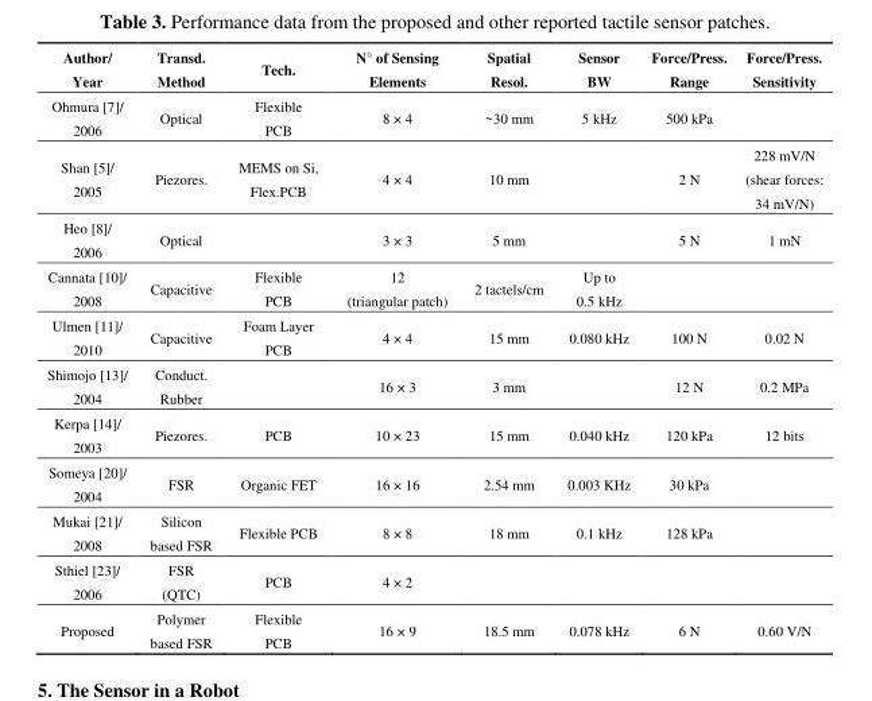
<table><thead><tr><td>Author/ Year</td><td>Transd. Method</td><td>Tech.</td><td>N° of Sensing Elements</td><td>Spatial Resol.</td><td>Sensor BW</td><td>Force/Press. Range</td><td>Force/Press. Sensitivity</td></tr></thead><tbody><tr><td>Ohmura [7]/ 2006</td><td>Optical</td><td>Flexible PCB</td><td>8 × 4</td><td>~30 mm</td><td>5 kHz</td><td>500 kPa</td><td></td></tr><tr><td>Shan [5]/ 2005</td><td>Piezores.</td><td>MEMS on Si, Flex.PCB</td><td>4 × 4</td><td>10 mm</td><td></td><td>2 N</td><td>228 mV/N (shear forces: 34 mV/N)</td></tr><tr><td>Heo [8]/ 2006</td><td>Optical</td><td></td><td>3 × 3</td><td>5 mm</td><td></td><td>5 N</td><td>1 mN</td></tr><tr><td>Cannata [10]/ 2008</td><td>Capacitive</td><td>Flexible PCB</td><td>12 (triangular patch)</td><td>2 tactels/cm</td><td>Up to 0.5 kHz</td><td></td><td></td></tr><tr><td>Ulmen [11]/ 2010</td><td>Capacitive</td><td>Foam Layer PCB</td><td>4 × 4</td><td>15 mm</td><td>0.080 kHz</td><td>100 N</td><td>0.02 N</td></tr><tr><td>Shimojo [13]/ 2004</td><td>Conduct. Rubber</td><td></td><td>16 × 3</td><td>3 mm</td><td></td><td>12 N</td><td>0.2 MPa</td></tr><tr><td>Kerpa [14]/ 2003</td><td>Piezores.</td><td>PCB</td><td>10 × 23</td><td>15 mm</td><td>0.040 kHz</td><td>120 kPa</td><td>12 bits</td></tr><tr><td>Someya [20]/ 2004</td><td>FSR</td><td>Organic FET</td><td>16 × 16</td><td>2.54 mm</td><td>0.003 KHz</td><td>30 kPa</td><td></td></tr><tr><td>Mukai [21]/ 2008</td><td>Silicon based FSR</td><td>Flexible PCB</td><td>8 × 8</td><td>18 mm</td><td>0.1 kHz</td><td>128 kPa</td><td></td></tr><tr><td>Sthiel [23]/ 2006</td><td>FSR (QTC)</td><td>PCB</td><td>4 × 2</td><td></td><td></td><td></td><td></td></tr><tr><td>Proposed</td><td>Polymer based FSR</td><td>Flexible PCB</td><td>16 × 9</td><td>18.5 mm</td><td>0.078 kHz</td><td>6 N</td><td>0.60 V/N</td></tr></tbody></table>